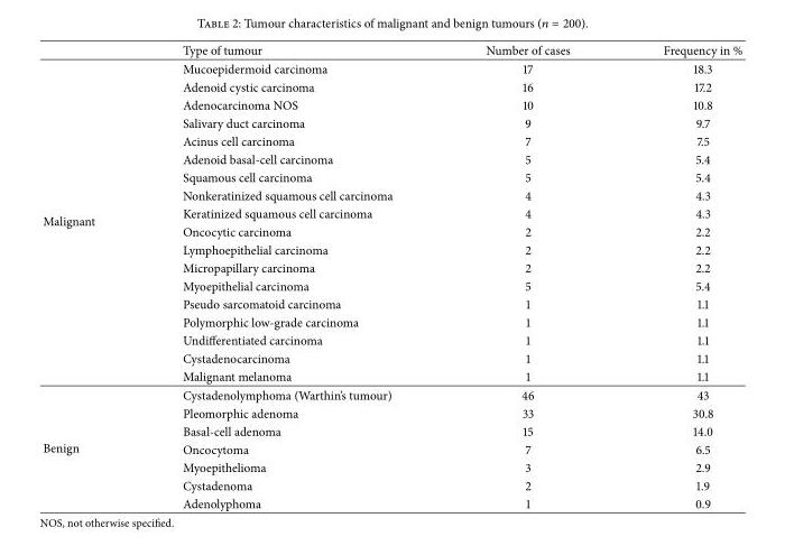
<table><thead><tr><td></td><td>Type of tumour</td><td>Number of cases</td><td>Frequency in %</td></tr></thead><tbody><tr><td rowspan="18">Malignant</td><td>Mucoepidermoid carcinoma</td><td>17</td><td>18.3</td></tr><tr><td>Adenoid cystic carcinoma</td><td>16</td><td>17.2</td></tr><tr><td>Adenocarcinoma NOS</td><td>10</td><td>10.8</td></tr><tr><td>Salivary duct carcinoma</td><td>9</td><td>9.7</td></tr><tr><td>Acinus cell carcinoma</td><td>7</td><td>7.5</td></tr><tr><td>Adenoid basal-cell carcinoma</td><td>5</td><td>5.4</td></tr><tr><td>Squamous cell carcinoma</td><td>5</td><td>5.4</td></tr><tr><td>Nonkeratinized squamous cell carcinoma</td><td>4</td><td>4.3</td></tr><tr><td>Keratinized squamous cell carcinoma</td><td>4</td><td>4.3</td></tr><tr><td>Oncocytic carcinoma</td><td>2</td><td>2.2</td></tr><tr><td>Lymphoepithelial carcinoma</td><td>2</td><td>2.2</td></tr><tr><td>Micropapillary carcinoma</td><td>2</td><td>2.2</td></tr><tr><td>Myoepithelial carcinoma</td><td>5</td><td>5.4</td></tr><tr><td>Pseudo sarcomatoid carcinoma</td><td>1</td><td>1.1</td></tr><tr><td>Polymorphic low-grade carcinoma</td><td>1</td><td>1.1</td></tr><tr><td>Undifferentiated carcinoma</td><td>1</td><td>1.1</td></tr><tr><td>Cystadenocarcinoma</td><td>1</td><td>1.1</td></tr><tr><td>Malignant melanoma</td><td>1</td><td>1.1</td></tr><tr><td rowspan="7">Benign</td><td>Cystadenolymphoma (Warthin’s tumour)</td><td>46</td><td>43</td></tr><tr><td>Pleomorphic adenoma</td><td>33</td><td>30.8</td></tr><tr><td>Basal-cell adenoma</td><td>15</td><td>14.0</td></tr><tr><td>Oncocytoma</td><td>7</td><td>6.5</td></tr><tr><td>Myoepithelioma</td><td>3</td><td>2.9</td></tr><tr><td>Cystadenoma</td><td>2</td><td>1.9</td></tr><tr><td>Adenolyphoma</td><td>1</td><td>0.9</td></tr></tbody></table>